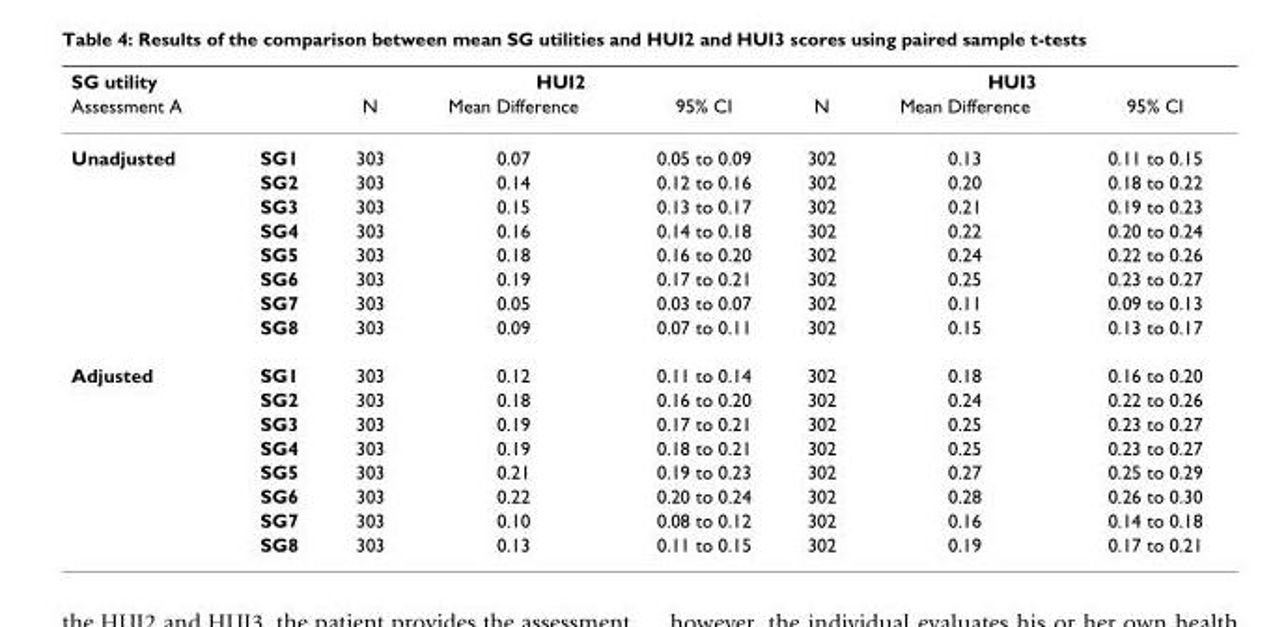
<table><thead><tr><td rowspan="2">SG utility Assessment A</td><td rowspan="2"></td><td colspan="3">HUI2</td><td colspan="3">HUI3</td></tr><tr><td>N</td><td>Mean Difference</td><td>95% CI</td><td>N</td><td>Mean Difference</td><td>95% CI</td></tr></thead><tbody><tr><td rowspan="8">Unadjusted</td><td>SG1</td><td>303</td><td>0.07</td><td>0.05 to 0.09</td><td>302</td><td>0.13</td><td>0.11 to 0.15</td></tr><tr><td>SG2</td><td>303</td><td>0.14</td><td>0.12 to 0.16</td><td>302</td><td>0.20</td><td>0.18 to 0.22</td></tr><tr><td>SG3</td><td>303</td><td>0.15</td><td>0.13 to 0.17</td><td>302</td><td>0.21</td><td>0.19 to 0.23</td></tr><tr><td>SG4</td><td>303</td><td>0.16</td><td>0.14 to 0.18</td><td>302</td><td>0.22</td><td>0.20 to 0.24</td></tr><tr><td>SG5</td><td>303</td><td>0.18</td><td>0.16 to 0.20</td><td>302</td><td>0.24</td><td>0.22 to 0.26</td></tr><tr><td>SG6</td><td>303</td><td>0.19</td><td>0.17 to 0.21</td><td>302</td><td>0.25</td><td>0.23 to 0.27</td></tr><tr><td>SG7</td><td>303</td><td>0.05</td><td>0.03 to 0.07</td><td>302</td><td>0.11</td><td>0.09 to 0.13</td></tr><tr><td>SG8</td><td>303</td><td>0.09</td><td>0.07 to 0.11</td><td>302</td><td>0.15</td><td>0.13 to 0.17</td></tr><tr><td rowspan="8">Adjusted</td><td>SG1</td><td>303</td><td>0.12</td><td>0.11 to 0.14</td><td>302</td><td>0.18</td><td>0.16 to 0.20</td></tr><tr><td>SG2</td><td>303</td><td>0.18</td><td>0.16 to 0.20</td><td>302</td><td>0.24</td><td>0.22 to 0.26</td></tr><tr><td>SG3</td><td>303</td><td>0.19</td><td>0.17 to 0.21</td><td>302</td><td>0.25</td><td>0.23 to 0.27</td></tr><tr><td>SG4</td><td>303</td><td>0.19</td><td>0.18 to 0.21</td><td>302</td><td>0.25</td><td>0.23 to 0.27</td></tr><tr><td>SG5</td><td>303</td><td>0.21</td><td>0.19 to 0.23</td><td>302</td><td>0.27</td><td>0.25 to 0.29</td></tr><tr><td>SG6</td><td>303</td><td>0.22</td><td>0.20 to 0.24</td><td>302</td><td>0.28</td><td>0.26 to 0.30</td></tr><tr><td>SG7</td><td>303</td><td>0.10</td><td>0.08 to 0.12</td><td>302</td><td>0.16</td><td>0.14 to 0.18</td></tr><tr><td>SG8</td><td>303</td><td>0.13</td><td>0.11 to 0.15</td><td>302</td><td>0.19</td><td>0.17 to 0.21</td></tr></tbody></table>